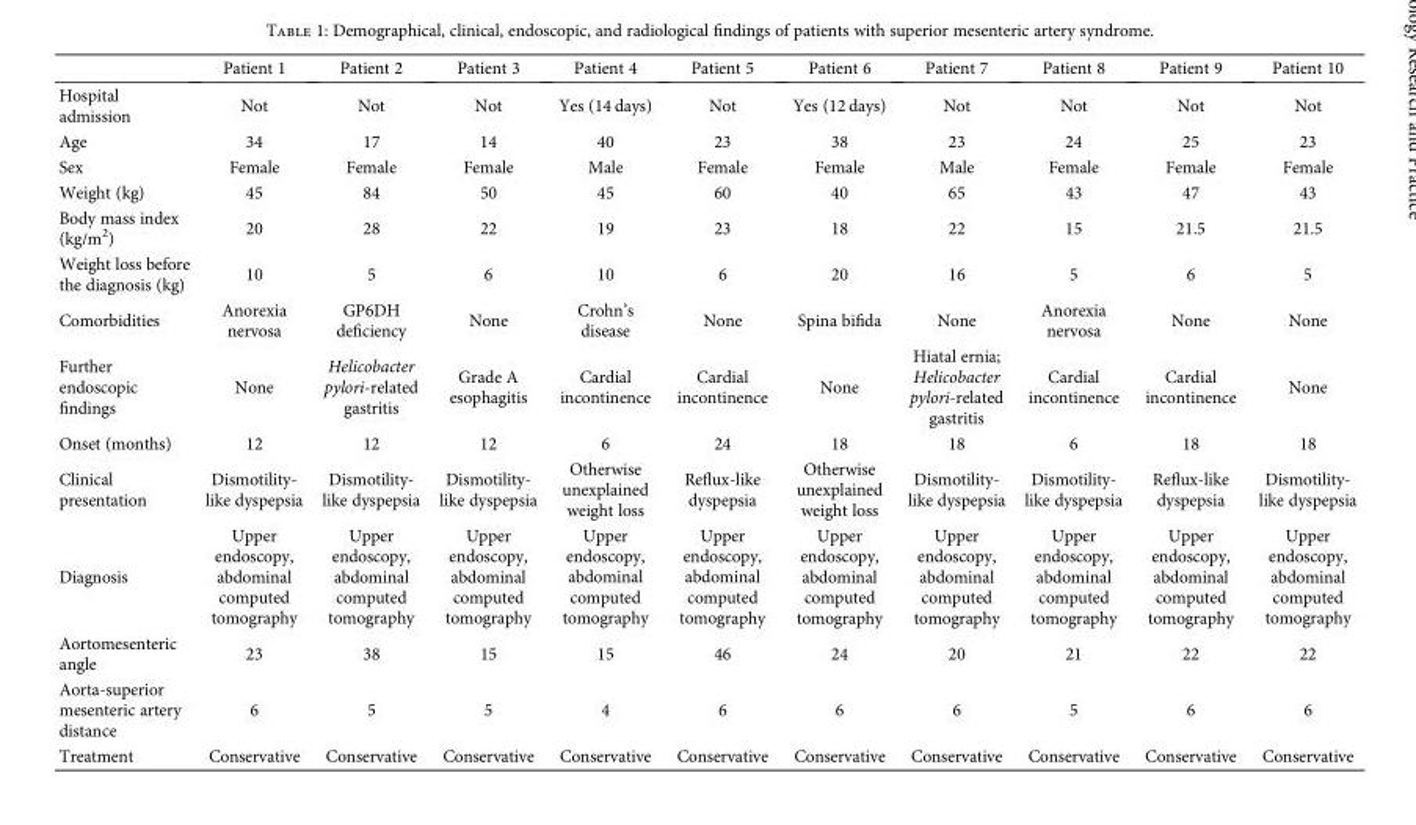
<table><thead><tr><td></td><td>Patient 1</td><td>Patient 2</td><td>Patient 3</td><td>Patient 4</td><td>Patient 5</td><td>Patient 6</td><td>Patient 7</td><td>Patient 8</td><td>Patient 9</td><td>Patient 10</td></tr></thead><tbody><tr><td>Hospital admission</td><td>Not</td><td>Not</td><td>Not</td><td>Yes (14 days)</td><td>Not</td><td>Yes (12 days)</td><td>Not</td><td>Not</td><td>Not</td><td>Not</td></tr><tr><td>Age</td><td>34</td><td>17</td><td>14</td><td>40</td><td>23</td><td>38</td><td>23</td><td>24</td><td>25</td><td>23</td></tr><tr><td>Sex</td><td>Female</td><td>Female</td><td>Female</td><td>Male</td><td>Female</td><td>Female</td><td>Male</td><td>Female</td><td>Female</td><td>Female</td></tr><tr><td>Weight (kg)</td><td>45</td><td>84</td><td>50</td><td>45</td><td>60</td><td>40</td><td>65</td><td>43</td><td>47</td><td>43</td></tr><tr><td>Body mass index (kg/m<sup>2</sup>)</td><td>20</td><td>28</td><td>22</td><td>19</td><td>23</td><td>18</td><td>22</td><td>15</td><td>21.5</td><td>21.5</td></tr><tr><td>Weight loss before the diagnosis (kg)</td><td>10</td><td>5</td><td>6</td><td>10</td><td>6</td><td>20</td><td>16</td><td>5</td><td>6</td><td>5</td></tr><tr><td>Comorbidities</td><td>Anorexia nervosa</td><td>GP6DH deficiency</td><td>None</td><td>Crohn’s disease</td><td>None</td><td>Spina bifida</td><td>None</td><td>Anorexia nervosa</td><td>None</td><td>None</td></tr><tr><td>Further endoscopic findings</td><td>None</td><td>Helicobacter pylori-related gastritis</td><td>Grade A esophagitis</td><td>Cardial incontinence</td><td>Cardial incontinence</td><td>None</td><td>Hiatal ernia; Helicobacter pylori-related gastritis</td><td>Cardial incontinence</td><td>Cardial incontinence</td><td>None</td></tr><tr><td>Onset (months)</td><td>12</td><td>12</td><td>12</td><td>6</td><td>24</td><td>18</td><td>18</td><td>6</td><td>18</td><td>18</td></tr><tr><td>Clinical presentation</td><td>Dismotility- like dyspepsia</td><td>Dismotility- like dyspepsia</td><td>Dismotility- like dyspepsia</td><td>Otherwise unexplained weight loss</td><td>Reflux-like dyspepsia</td><td>Otherwise unexplained weight loss</td><td>Dismotility- like dyspepsia</td><td>Dismotility- like dyspepsia</td><td>Reflux-like dyspepsia</td><td>Dismotility- like dyspepsia</td></tr><tr><td>Diagnosis</td><td>Upper endoscopy, abdominal computed tomography</td><td>Upper endoscopy, abdominal computed tomography</td><td>Upper endoscopy, abdominal computed tomography</td><td>Upper endoscopy, abdominal computed tomography</td><td>Upper endoscopy, abdominal computed tomography</td><td>Upper endoscopy, abdominal computed tomography</td><td>Upper endoscopy, abdominal computed tomography</td><td>Upper endoscopy, abdominal computed tomography</td><td>Upper endoscopy, abdominal computed tomography</td><td>Upper endoscopy, abdominal computed tomography</td></tr><tr><td>Aortomesenteric angle</td><td>23</td><td>38</td><td>15</td><td>15</td><td>46</td><td>24</td><td>20</td><td>21</td><td>22</td><td>22</td></tr><tr><td>Aorta-superior mesenteric artery distance</td><td>6</td><td>5</td><td>5</td><td>4</td><td>6</td><td>6</td><td>6</td><td>5</td><td>6</td><td>6</td></tr><tr><td>Treatment</td><td>Conservative</td><td>Conservative</td><td>Conservative</td><td>Conservative</td><td>Conservative</td><td>Conservative</td><td>Conservative</td><td>Conservative</td><td>Conservative</td><td>Conservative</td></tr></tbody></table>